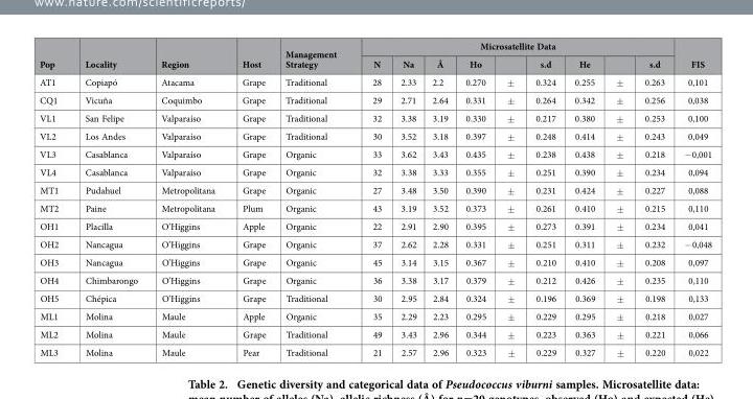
<table><thead><tr><td rowspan="2">Pop</td><td rowspan="2">Locality</td><td rowspan="2">Region</td><td rowspan="2">Host</td><td rowspan="2">Management Strategy</td><td colspan="9">Microsatellite Data</td><td rowspan="2">FIS</td></tr><tr><td>N</td><td>Na</td><td>Â</td><td>Ho</td><td></td><td>s.d</td><td>He</td><td></td><td>s.d</td></tr></thead><tbody><tr><td>AT1</td><td>Copiapó</td><td>Atacama</td><td>Grape</td><td>Traditional</td><td>28</td><td>2.33</td><td>2.2</td><td>0.270</td><td>±</td><td>0.324</td><td>0.255</td><td>±</td><td>0.263</td><td>0,101</td></tr><tr><td>CQ1</td><td>Vicuña</td><td>Coquimbo</td><td>Grape</td><td>Traditional</td><td>29</td><td>2.71</td><td>2.64</td><td>0.331</td><td>±</td><td>0.264</td><td>0.342</td><td>±</td><td>0.256</td><td>0,038</td></tr><tr><td>VL1</td><td>San Felipe</td><td>Valparaíso</td><td>Grape</td><td>Traditional</td><td>32</td><td>3.38</td><td>3.19</td><td>0.330</td><td>±</td><td>0.217</td><td>0.380</td><td>±</td><td>0.253</td><td>0,100</td></tr><tr><td>VL2</td><td>Los Andes</td><td>Valparaíso</td><td>Grape</td><td>Traditional</td><td>30</td><td>3.52</td><td>3.18</td><td>0.397</td><td>±</td><td>0.248</td><td>0.414</td><td>±</td><td>0.243</td><td>0,049</td></tr><tr><td>VL3</td><td>Casablanca</td><td>Valparaíso</td><td>Grape</td><td>Organic</td><td>33</td><td>3.62</td><td>3.43</td><td>0.435</td><td>±</td><td>0.238</td><td>0.438</td><td>±</td><td>0.218</td><td>− 0,001</td></tr><tr><td>VL4</td><td>Casablanca</td><td>Valparaíso</td><td>Grape</td><td>Organic</td><td>32</td><td>3.38</td><td>3.33</td><td>0.355</td><td>±</td><td>0.251</td><td>0.390</td><td>±</td><td>0.234</td><td>0,094</td></tr><tr><td>MT1</td><td>Pudahuel</td><td>Metropolitana</td><td>Grape</td><td>Organic</td><td>27</td><td>3.48</td><td>3.50</td><td>0.390</td><td>±</td><td>0.231</td><td>0.424</td><td>±</td><td>0.227</td><td>0,088</td></tr><tr><td>MT2</td><td>Paine</td><td>Metropolitana</td><td>Plum</td><td>Organic</td><td>43</td><td>3.19</td><td>3.52</td><td>0.373</td><td>±</td><td>0.261</td><td>0.410</td><td>±</td><td>0.215</td><td>0,110</td></tr><tr><td>OH1</td><td>Placilla</td><td>O’Higgins</td><td>Apple</td><td>Organic</td><td>22</td><td>2.91</td><td>2.90</td><td>0.395</td><td>±</td><td>0.273</td><td>0.391</td><td>±</td><td>0.234</td><td>0,041</td></tr><tr><td>OH2</td><td>Nancagua</td><td>O’Higgins</td><td>Grape</td><td>Organic</td><td>37</td><td>2.62</td><td>2.28</td><td>0.331</td><td>±</td><td>0.251</td><td>0.311</td><td>±</td><td>0.232</td><td>− 0,048</td></tr><tr><td>OH3</td><td>Nancagua</td><td>O’Higgins</td><td>Grape</td><td>Organic</td><td>45</td><td>3.14</td><td>3.15</td><td>0.367</td><td>±</td><td>0.210</td><td>0.410</td><td>±</td><td>0.208</td><td>0,097</td></tr><tr><td>OH4</td><td>Chimbarongo</td><td>O’Higgins</td><td>Grape</td><td>Organic</td><td>36</td><td>3.38</td><td>3.17</td><td>0.379</td><td>±</td><td>0.212</td><td>0.426</td><td>±</td><td>0.235</td><td>0,110</td></tr><tr><td>OH5</td><td>Chépica</td><td>O’Higgins</td><td>Grape</td><td>Traditional</td><td>30</td><td>2.95</td><td>2.84</td><td>0.324</td><td>±</td><td>0.196</td><td>0.369</td><td>±</td><td>0.198</td><td>0,133</td></tr><tr><td>ML1</td><td>Molina</td><td>Maule</td><td>Apple</td><td>Organic</td><td>35</td><td>2.29</td><td>2.23</td><td>0.295</td><td>±</td><td>0.229</td><td>0.295</td><td>±</td><td>0.218</td><td>0,027</td></tr><tr><td>ML2</td><td>Molina</td><td>Maule</td><td>Grape</td><td>Traditional</td><td>49</td><td>3.43</td><td>2.96</td><td>0.344</td><td>±</td><td>0.223</td><td>0.363</td><td>±</td><td>0.221</td><td>0,066</td></tr><tr><td>ML3</td><td>Molina</td><td>Maule</td><td>Pear</td><td>Traditional</td><td>21</td><td>2.57</td><td>2.96</td><td>0.323</td><td>±</td><td>0.229</td><td>0.327</td><td>±</td><td>0.220</td><td>0,022</td></tr></tbody></table>